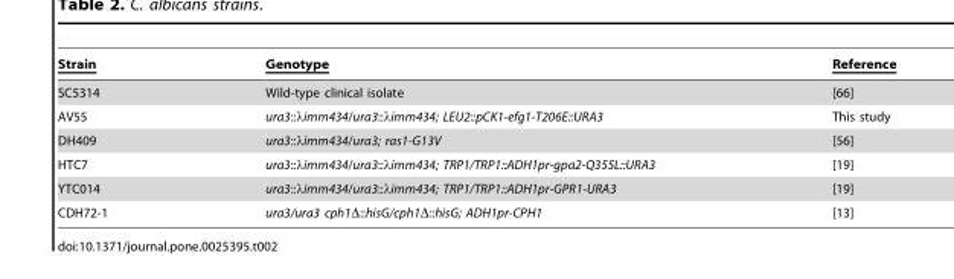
<table><thead><tr><td>Strain</td><td>Genotype</td><td>Reference</td></tr></thead><tbody><tr><td>SC5314</td><td>Wild-type clinical isolate</td><td>[66]</td></tr><tr><td>AV55</td><td>ura3::λimm434/ura3::λimm434; LEU2::pCK1-efg1-T206E::URA3</td><td>This study</td></tr><tr><td>DH409</td><td>ura3::λimm434/ura3; ras1-G13V</td><td>[56]</td></tr><tr><td>HTC7</td><td>ura3::λimm434/ura3::λimm434; TRP1/TRP1::ADH1pr-gpa2-Q355L::URA3</td><td>[19]</td></tr><tr><td>YTC014</td><td>ura3::λimm434/ura3::λimm434; TRP1/TRP1::ADH1pr-GPR1-URA3</td><td>[19]</td></tr><tr><td>CDH72-1</td><td>ura3/ura3 cph1Δ::hisG/cph1Δ::hisG; ADH1pr-CPH1</td><td>[13]</td></tr></tbody></table>